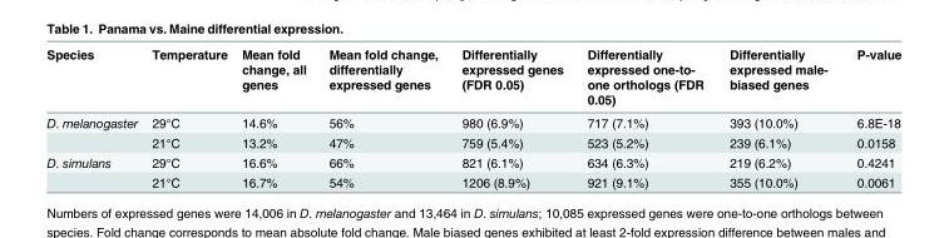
<table><thead><tr><td>Species</td><td>Temperature</td><td>Mean fold change, all genes</td><td>Mean fold change, differentially expressed genes</td><td>Differentially expressed genes (FDR 0.05)</td><td>Differentially expressed one-to- one orthologs (FDR 0.05)</td><td>Differentially expressed male- biased genes</td><td>P-value</td></tr></thead><tbody><tr><td rowspan="2">D. melanogaster</td><td>29°C</td><td>14.6%</td><td>56%</td><td>980 (6.9%)</td><td>717 (7.1%)</td><td>393 (10.0%)</td><td>6.8E-18</td></tr><tr><td>21°C</td><td>13.2%</td><td>47%</td><td>759 (5.4%)</td><td>523 (5.2%)</td><td>239 (6.1%)</td><td>0.0158</td></tr><tr><td rowspan="2">D. simulans</td><td>29°C</td><td>16.6%</td><td>66%</td><td>821 (6.1%)</td><td>634 (6.3%)</td><td>219 (6.2%)</td><td>0.4241</td></tr><tr><td>21°C</td><td>16.7%</td><td>54%</td><td>1206 (8.9%)</td><td>921 (9.1%)</td><td>355 (10.0%)</td><td>0.0061</td></tr></tbody></table>